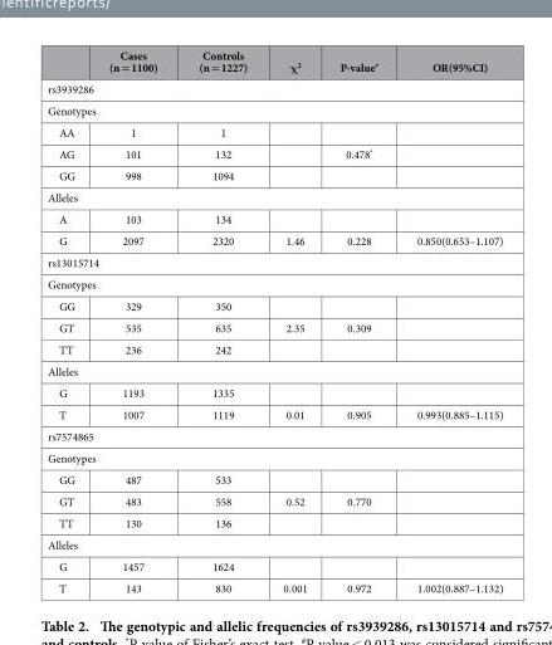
<table><thead><tr><td></td><td>Cases (n = 1100)</td><td>Controls (n = 1227)</td><td>χ<sup>2</sup></td><td>P-value#</td><td>OR(95%CI)</td></tr></thead><tbody><tr><td colspan="6">rs3939286</td></tr><tr><td colspan="6">Genotypes</td></tr><tr><td>AA</td><td>1</td><td>1</td><td></td><td></td><td></td></tr><tr><td>AG</td><td>101</td><td>132</td><td></td><td>0.478*</td><td></td></tr><tr><td>GG</td><td>998</td><td>1094</td><td></td><td></td><td></td></tr><tr><td colspan="6">Alleles</td></tr><tr><td>A</td><td>103</td><td>134</td><td></td><td></td><td></td></tr><tr><td>G</td><td>2097</td><td>2320</td><td>1.46</td><td>0.228</td><td>0.850(0.653–1.107)</td></tr><tr><td colspan="6">rs13015714</td></tr><tr><td colspan="6">Genotypes</td></tr><tr><td>GG</td><td>329</td><td>350</td><td></td><td></td><td></td></tr><tr><td>GT</td><td>535</td><td>635</td><td>2.35</td><td>0.309</td><td></td></tr><tr><td>TT</td><td>236</td><td>242</td><td></td><td></td><td></td></tr><tr><td colspan="6">Alleles</td></tr><tr><td>G</td><td>1193</td><td>1335</td><td></td><td></td><td></td></tr><tr><td>T</td><td>1007</td><td>1119</td><td>0.01</td><td>0.905</td><td>0.993(0.885–1.115)</td></tr><tr><td colspan="6">rs7574865</td></tr><tr><td colspan="6">Genotypes</td></tr><tr><td>GG</td><td>487</td><td>533</td><td></td><td></td><td></td></tr><tr><td>GT</td><td>483</td><td>558</td><td>0.52</td><td>0.770</td><td></td></tr><tr><td>TT</td><td>130</td><td>136</td><td></td><td></td><td></td></tr><tr><td colspan="6">Alleles</td></tr><tr><td>G</td><td>1457</td><td>1624</td><td></td><td></td><td></td></tr><tr><td>T</td><td>143</td><td>830</td><td>0.001</td><td>0.972</td><td>1.002(0.887–1.132)</td></tr></tbody></table>